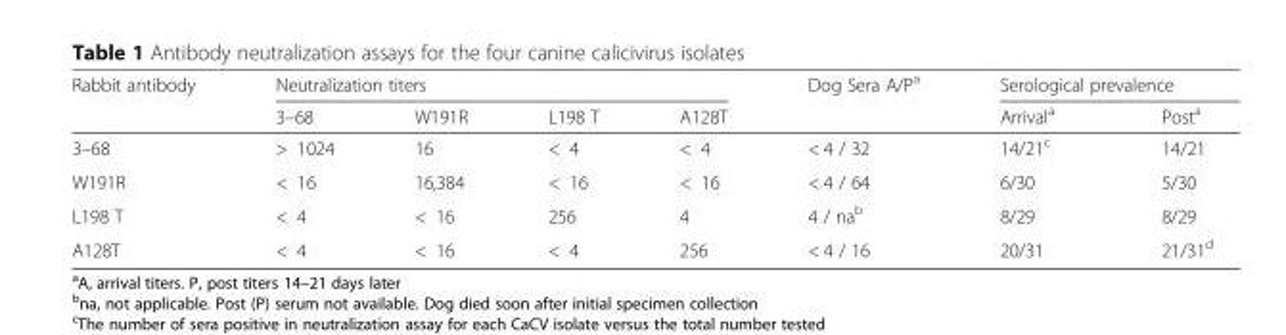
<table><thead><tr><td rowspan="2">Rabbit antibody</td><td colspan="4">Neutralization titers</td><td rowspan="2">Dog Sera A/P<sup>a</sup></td><td colspan="2">Serological prevalence</td></tr><tr><td>3–68</td><td>W191R</td><td>L198 T</td><td>A128T</td><td>Arrival<sup>a</sup></td><td>Post<sup>a</sup></td></tr></thead><tbody><tr><td>3–68</td><td>&gt; 1024</td><td>16</td><td>&lt; 4</td><td>&lt; 4</td><td>&lt; 4 / 32</td><td>14/21<sup>c</sup></td><td>14/21</td></tr><tr><td>W191R</td><td>&lt; 16</td><td>16,384</td><td>&lt; 16</td><td>&lt; 16</td><td>&lt; 4 / 64</td><td>6/30</td><td>5/30</td></tr><tr><td>L198 T</td><td>&lt; 4</td><td>&lt; 16</td><td>256</td><td>4</td><td>4 / na<sup>b</sup></td><td>8/29</td><td>8/29</td></tr><tr><td>A128T</td><td>&lt; 4</td><td>&lt; 16</td><td>&lt; 4</td><td>256</td><td>&lt; 4 / 16</td><td>20/31</td><td>21/31<sup>d</sup></td></tr></tbody></table>